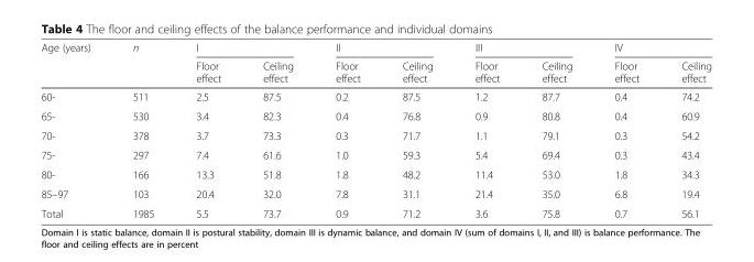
<table><thead><tr><td rowspan="2">Age (years)</td><td rowspan="2">n</td><td colspan="2">I</td><td colspan="2">II</td><td colspan="2">III</td><td colspan="2">IV</td></tr><tr><td>Floor effect</td><td>Ceiling effect</td><td>Floor effect</td><td>Ceiling effect</td><td>Floor effect</td><td>Ceiling effect</td><td>Floor effect</td><td>Ceiling effect</td></tr></thead><tbody><tr><td>60-</td><td>511</td><td>2.5</td><td>87.5</td><td>0.2</td><td>87.5</td><td>1.2</td><td>87.7</td><td>0.4</td><td>74.2</td></tr><tr><td>65-</td><td>530</td><td>3.4</td><td>82.3</td><td>0.4</td><td>76.8</td><td>0.9</td><td>80.8</td><td>0.4</td><td>60.9</td></tr><tr><td>70-</td><td>378</td><td>3.7</td><td>73.3</td><td>0.3</td><td>71.7</td><td>1.1</td><td>79.1</td><td>0.3</td><td>54.2</td></tr><tr><td>75-</td><td>297</td><td>7.4</td><td>61.6</td><td>1.0</td><td>59.3</td><td>5.4</td><td>69.4</td><td>0.3</td><td>43.4</td></tr><tr><td>80-</td><td>166</td><td>13.3</td><td>51.8</td><td>1.8</td><td>48.2</td><td>11.4</td><td>53.0</td><td>1.8</td><td>34.3</td></tr><tr><td>85–97</td><td>103</td><td>20.4</td><td>32.0</td><td>7.8</td><td>31.1</td><td>21.4</td><td>35.0</td><td>6.8</td><td>19.4</td></tr><tr><td>Total</td><td>1985</td><td>5.5</td><td>73.7</td><td>0.9</td><td>71.2</td><td>3.6</td><td>75.8</td><td>0.7</td><td>56.1</td></tr></tbody></table>